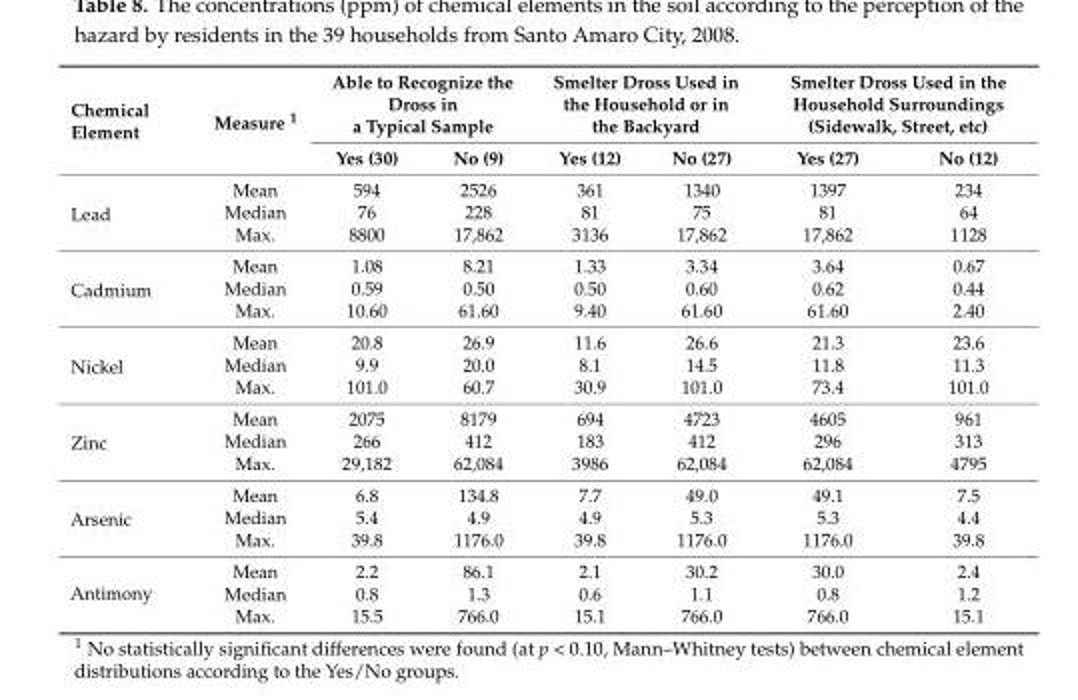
<table><thead><tr><td rowspan="2">Chemical Element</td><td rowspan="2">Measure <sup>1</sup></td><td colspan="2">Able to Recognize the Dross in a Typical Sample</td><td colspan="2">Smelter Dross Used in the Household or in the Backyard</td><td colspan="2">Smelter Dross Used in the Household Surroundings (Sidewalk, Street, etc)</td></tr><tr><td>Yes (30)</td><td>No (9)</td><td>Yes (12)</td><td>No (27)</td><td>Yes (27)</td><td>No (12)</td></tr></thead><tbody><tr><td rowspan="3">Lead</td><td>Mean</td><td>594</td><td>2526</td><td>361</td><td>1340</td><td>1397</td><td>234</td></tr><tr><td>Median</td><td>76</td><td>228</td><td>81</td><td>75</td><td>81</td><td>64</td></tr><tr><td>Max.</td><td>8800</td><td>17,862</td><td>3136</td><td>17,862</td><td>17,862</td><td>1128</td></tr><tr><td rowspan="3">Cadmium</td><td>Mean</td><td>1.08</td><td>8.21</td><td>1.33</td><td>3.34</td><td>3.64</td><td>0.67</td></tr><tr><td>Median</td><td>0.59</td><td>0.50</td><td>0.50</td><td>0.60</td><td>0.62</td><td>0.44</td></tr><tr><td>Max.</td><td>10.60</td><td>61.60</td><td>9.40</td><td>61.60</td><td>61.60</td><td>2.40</td></tr><tr><td rowspan="3">Nickel</td><td>Mean</td><td>20.8</td><td>26.9</td><td>11.6</td><td>26.6</td><td>21.3</td><td>23.6</td></tr><tr><td>Median</td><td>9.9</td><td>20.0</td><td>8.1</td><td>14.5</td><td>11.8</td><td>11.3</td></tr><tr><td>Max.</td><td>101.0</td><td>60.7</td><td>30.9</td><td>101.0</td><td>73.4</td><td>101.0</td></tr><tr><td rowspan="3">Zinc</td><td>Mean</td><td>2075</td><td>8179</td><td>694</td><td>4723</td><td>4605</td><td>961</td></tr><tr><td>Median</td><td>266</td><td>412</td><td>183</td><td>412</td><td>296</td><td>313</td></tr><tr><td>Max.</td><td>29,182</td><td>62,084</td><td>3986</td><td>62,084</td><td>62,084</td><td>4795</td></tr><tr><td rowspan="3">Arsenic</td><td>Mean</td><td>6.8</td><td>134.8</td><td>7.7</td><td>49.0</td><td>49.1</td><td>7.5</td></tr><tr><td>Median</td><td>5.4</td><td>4.9</td><td>4.9</td><td>5.3</td><td>5.3</td><td>4.4</td></tr><tr><td>Max.</td><td>39.8</td><td>1176.0</td><td>39.8</td><td>1176.0</td><td>1176.0</td><td>39.8</td></tr><tr><td rowspan="3">Antimony</td><td>Mean</td><td>2.2</td><td>86.1</td><td>2.1</td><td>30.2</td><td>30.0</td><td>2.4</td></tr><tr><td>Median</td><td>0.8</td><td>1.3</td><td>0.6</td><td>1.1</td><td>0.8</td><td>1.2</td></tr><tr><td>Max.</td><td>15.5</td><td>766.0</td><td>15.1</td><td>766.0</td><td>766.0</td><td>15.1</td></tr></tbody></table>